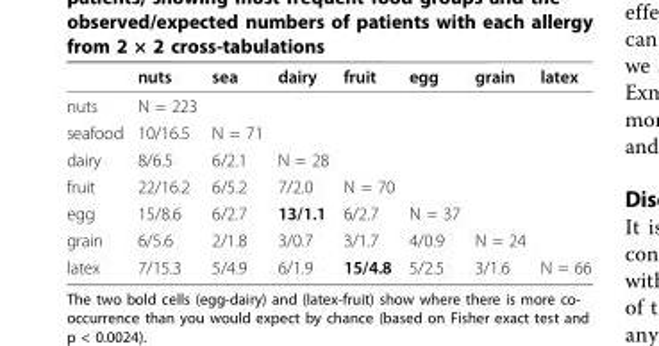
<table><thead><tr><td></td><td>nuts</td><td>sea</td><td>dairy</td><td>fruit</td><td>egg</td><td>grain</td><td>latex</td></tr></thead><tbody><tr><td>nuts</td><td>N = 223</td><td></td><td></td><td></td><td></td><td></td><td></td></tr><tr><td>seafood</td><td>10/16.5</td><td>N = 71</td><td></td><td></td><td></td><td></td><td></td></tr><tr><td>dairy</td><td>8/6.5</td><td>6/2.1</td><td>N = 28</td><td></td><td></td><td></td><td></td></tr><tr><td>fruit</td><td>22/16.2</td><td>6/5.2</td><td>7/2.0</td><td>N = 70</td><td></td><td></td><td></td></tr><tr><td>egg</td><td>15/8.6</td><td>6/2.7</td><td>13/1.1</td><td>6/2.7</td><td>N = 37</td><td></td><td></td></tr><tr><td>grain</td><td>6/5.6</td><td>2/1.8</td><td>3/0.7</td><td>3/1.7</td><td>4/0.9</td><td>N = 24</td><td></td></tr><tr><td>latex</td><td>7/15.3</td><td>5/4.9</td><td>6/1.9</td><td>15/4.8</td><td>5/2.5</td><td>3/1.6</td><td>N = 66</td></tr></tbody></table>